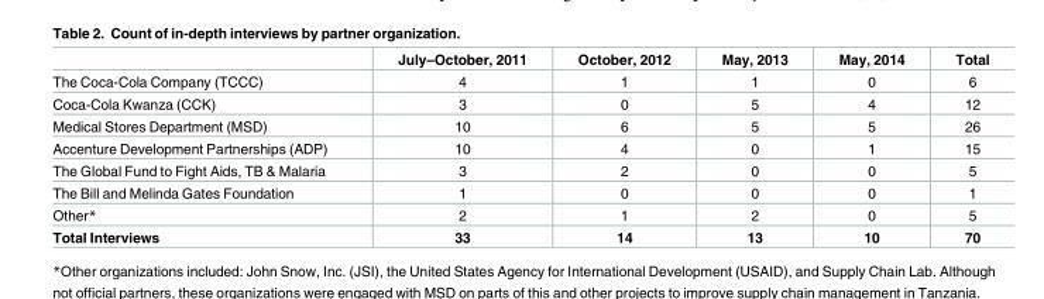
<table><thead><tr><td></td><td>July–October, 2011</td><td>October, 2012</td><td>May, 2013</td><td>May, 2014</td><td>Total</td></tr></thead><tbody><tr><td>The Coca-Cola Company (TCCC)</td><td>4</td><td>1</td><td>1</td><td>0</td><td>6</td></tr><tr><td>Coca-Cola Kwanza (CCK)</td><td>3</td><td>0</td><td>5</td><td>4</td><td>12</td></tr><tr><td>Medical Stores Department (MSD)</td><td>10</td><td>6</td><td>5</td><td>5</td><td>26</td></tr><tr><td>Accenture Development Partnerships (ADP)</td><td>10</td><td>4</td><td>0</td><td>1</td><td>15</td></tr><tr><td>The Global Fund to Fight Aids, TB &amp; Malaria</td><td>3</td><td>2</td><td>0</td><td>0</td><td>5</td></tr><tr><td>The Bill and Melinda Gates Foundation</td><td>1</td><td>0</td><td>0</td><td>0</td><td>1</td></tr><tr><td>Other*</td><td>2</td><td>1</td><td>2</td><td>0</td><td>5</td></tr><tr><td>Total Interviews</td><td>33</td><td>14</td><td>13</td><td>10</td><td>70</td></tr></tbody></table>